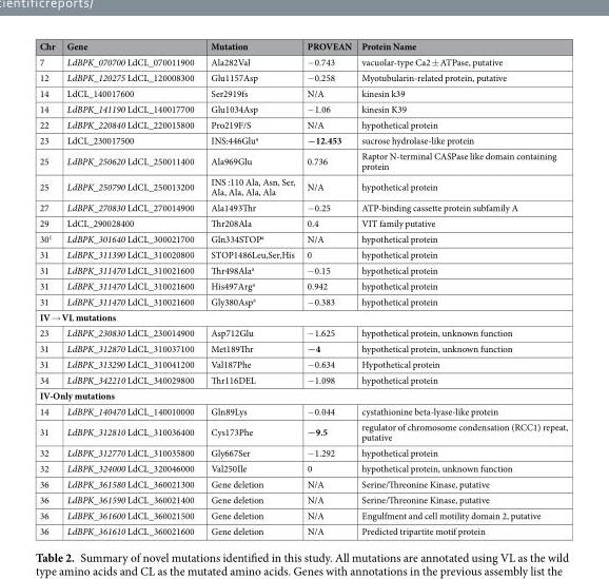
<table><thead><tr><td>Chr</td><td>Gene</td><td>Mutation</td><td>PROVEAN</td><td>Protein Name</td></tr></thead><tbody><tr><td>7</td><td>LdBPK_070700 LdCL_070011900</td><td>Ala282Val</td><td>−0.743</td><td>vacuolar-type Ca2 ± ATPase, putative</td></tr><tr><td>12</td><td>LdBPK_120275 LdCL_120008300</td><td>Glu1157Asp</td><td>−0.258</td><td>Myotubularin-related protein, putative</td></tr><tr><td>14</td><td>LdCL_140017600</td><td>Ser2919fs</td><td>N/A</td><td>kinesin k39</td></tr><tr><td>14</td><td>LdBPK_141190 LdCL_140017700</td><td>Glu1034Asp</td><td>−1.06</td><td>kinesin K39</td></tr><tr><td>22</td><td>LdBPK_220840 LdCL_220015800</td><td>Pro219F/S</td><td>N/A</td><td>hypothetical protein</td></tr><tr><td>23</td><td>LdCL_230017500</td><td>INS:446Glu<sup>a</sup></td><td>−12.453</td><td>sucrose hydrolase-like protein</td></tr><tr><td>25</td><td>LdBPK_250620 LdCL_250011400</td><td>Ala969Glu</td><td>0.736</td><td>Raptor N-terminal CASPase like domain containing protein</td></tr><tr><td>25</td><td>LdBPK_250790 LdCL_250013200</td><td>INS :110 Ala, Asn, Ser, Ala, Ala, Ala, Ala</td><td>N/A</td><td>hypothetical protein</td></tr><tr><td>27</td><td>LdBPK_270830 LdCL_270014900</td><td>Ala1493Thr</td><td>−0.25</td><td>ATP-binding cassette protein subfamily A</td></tr><tr><td>29</td><td>LdCL_290028400</td><td>Thr208Ala</td><td>0.4</td><td>VIT family putative</td></tr><tr><td>30<sup>1</sup></td><td>LdBPK_301640 LdCL_300021700</td><td>Gln334STOP<sup>a</sup></td><td>N/A</td><td>hypothetical protein</td></tr><tr><td>31</td><td>LdBPK_311390 LdCL_310020800</td><td>STOP1486Leu,Ser,His</td><td>0</td><td>hypothetical protein</td></tr><tr><td>31</td><td>LdBPK_311470 LdCL_310021600</td><td>Thr498Ala<sup>a</sup></td><td>−0.15</td><td>hypothetical protein</td></tr><tr><td>31</td><td>LdBPK_311470 LdCL_310021600</td><td>His497Arg<sup>a</sup></td><td>0.942</td><td>hypothetical protein</td></tr><tr><td>31</td><td>LdBPK_311470 LdCL_310021600</td><td>Gly380Asp<sup>a</sup></td><td>−0.383</td><td>hypothetical protein</td></tr><tr><td colspan="5">IV → VL mutations</td></tr><tr><td>23</td><td>LdBPK_230830 LdCL_230014900</td><td>Asp712Glu</td><td>−1.625</td><td>hypothetical protein, unknown function</td></tr><tr><td>31</td><td>LdBPK_312870 LdCL_310037100</td><td>Met189Thr</td><td>−4</td><td>hypothetical protein, unknown function</td></tr><tr><td>31</td><td>LdBPK_313290 LdCL_310041200</td><td>Val187Phe</td><td>−0.634</td><td>Hypothetical protein</td></tr><tr><td>34</td><td>LdBPK_342210 LdCL_340029800</td><td>Thr116DEL</td><td>−1.098</td><td>hypothetical protein</td></tr><tr><td colspan="5">IV-Only mutations</td></tr><tr><td>14</td><td>LdBPK_140470 LdCL_140010000</td><td>Gln89Lys</td><td>−0.044</td><td>cystathionine beta-lyase-like protein</td></tr><tr><td>31</td><td>LdBPK_312810 LdCL_310036400</td><td>Cys173Phe</td><td>−9.5</td><td>regulator of chromosome condensation (RCC1) repeat, putative</td></tr><tr><td>32</td><td>LdBPK_312770 LdCL_310035800</td><td>Gly667Ser</td><td>−1.292</td><td>hypothetical protein</td></tr><tr><td>32</td><td>LdBPK_324000 LdCL_320046000</td><td>Val250Ile</td><td>0</td><td>hypothetical protein, unknown function</td></tr><tr><td>36</td><td>LdBPK_361580 LdCL_360021300</td><td>Gene deletion</td><td>N/A</td><td>Serine/Threonine Kinase, putative</td></tr><tr><td>36</td><td>LdBPK_361590 LdCL_360021400</td><td>Gene deletion</td><td>N/A</td><td>Serine/Threonine Kinase, putative</td></tr><tr><td>36</td><td>LdBPK_361600 LdCL_360021500</td><td>Gene deletion</td><td>N/A</td><td>Engulfment and cell motility domain 2, putative</td></tr><tr><td>36</td><td>LdBPK_361610 LdCL_360021600</td><td>Gene deletion</td><td>N/A</td><td>Predicted tripartite motif protein</td></tr></tbody></table>